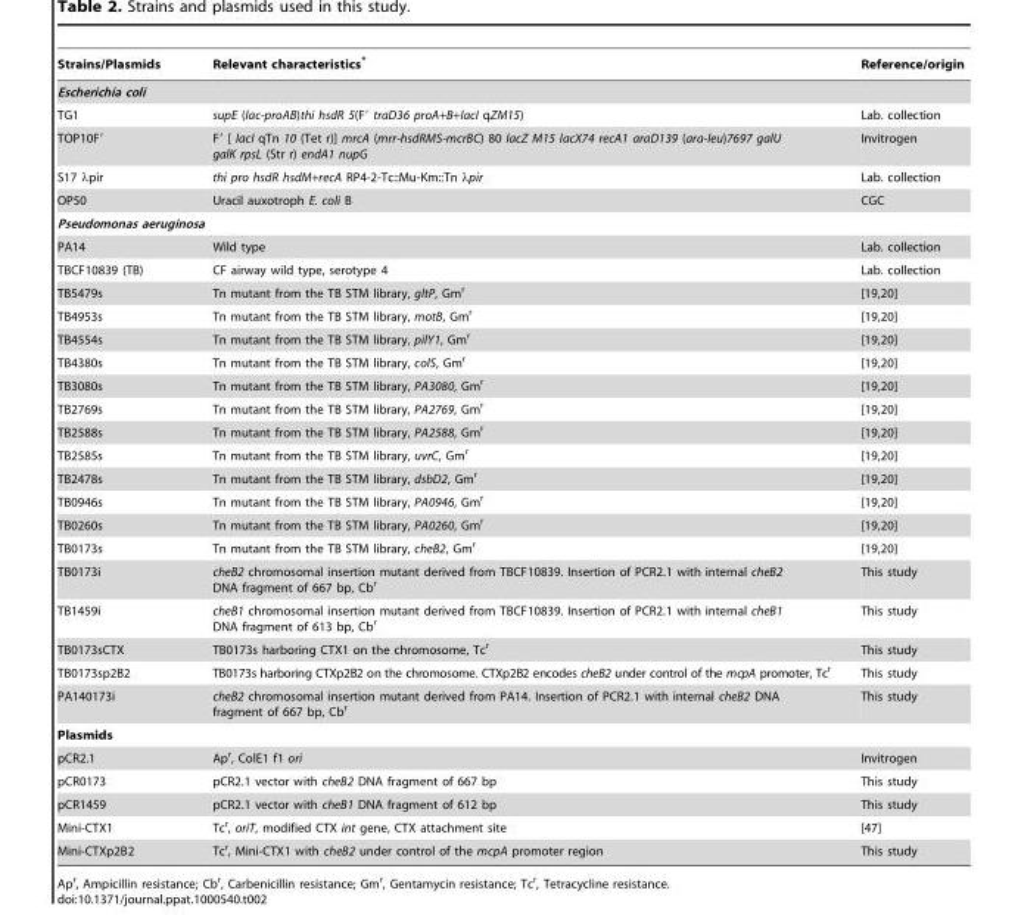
<table><thead><tr><td>Strains/Plasmids</td><td>Relevant characteristics*</td><td>Reference/origin</td></tr></thead><tbody><tr><td colspan="3">Escherichia coli</td></tr><tr><td>TG1</td><td>supE (lac-proAB)thi hsdR 5(F′ traD36 proA+B+lacI qZM15)</td><td>Lab. collection</td></tr><tr><td>TOP10F′</td><td>F′ [ lacI qTn 10 (Tet r)] mrcA (mrr-hsdRMS-mcrBC) 80 lacZ M15 lacX74 recA1 araD139 (ara-leu)7697 galU galK rpsL (Str r) endA1 nupG</td><td>Invitrogen</td></tr><tr><td>S17 λpir</td><td>thi pro hsdR hsdM+recA RP4-2-Tc::Mu-Km::Tn λpir</td><td>Lab. collection</td></tr><tr><td>OP50</td><td>Uracil auxotroph E. coli B</td><td>CGC</td></tr><tr><td colspan="3">Pseudomonas aeruginosa</td></tr><tr><td>PA14</td><td>Wild type</td><td>Lab. collection</td></tr><tr><td>TBCF10839 (TB)</td><td>CF airway wild type, serotype 4</td><td>Lab. collection</td></tr><tr><td>TB5479s</td><td>Tn mutant from the TB STM library, gltP, Gm<sup>r</sup></td><td>[19,20]</td></tr><tr><td>TB4953s</td><td>Tn mutant from the TB STM library, motB, Gm<sup>r</sup></td><td>[19,20]</td></tr><tr><td>TB4554s</td><td>Tn mutant from the TB STM library, pilY1, Gm<sup>r</sup></td><td>[19,20]</td></tr><tr><td>TB4380s</td><td>Tn mutant from the TB STM library, colS, Gm<sup>r</sup></td><td>[19,20]</td></tr><tr><td>TB3080s</td><td>Tn mutant from the TB STM library, PA3080, Gm<sup>r</sup></td><td>[19,20]</td></tr><tr><td>TB2769s</td><td>Tn mutant from the TB STM library, PA2769, Gm<sup>r</sup></td><td>[19,20]</td></tr><tr><td>TB2588s</td><td>Tn mutant from the TB STM library, PA2588, Gm<sup>r</sup></td><td>[19,20]</td></tr><tr><td>TB2585s</td><td>Tn mutant from the TB STM library, uvrC, Gm<sup>r</sup></td><td>[19,20]</td></tr><tr><td>TB2478s</td><td>Tn mutant from the TB STM library, dsbD2, Gm<sup>r</sup></td><td>[19,20]</td></tr><tr><td>TB0946s</td><td>Tn mutant from the TB STM library, PA0946, Gm<sup>r</sup></td><td>[19,20]</td></tr><tr><td>TB0260s</td><td>Tn mutant from the TB STM library, PA0260, Gm<sup>r</sup></td><td>[19,20]</td></tr><tr><td>TB0173s</td><td>Tn mutant from the TB STM library, cheB2, Gm<sup>r</sup></td><td>[19,20]</td></tr><tr><td>TB0173i</td><td>cheB2 chromosomal insertion mutant derived from TBCF10839. Insertion of PCR2.1 with internal cheB2 DNA fragment of 667 bp, Cb<sup>r</sup></td><td>This study</td></tr><tr><td>TB1459i</td><td>cheB1 chromosomal insertion mutant derived from TBCF10839. Insertion of PCR2.1 with internal cheB1 DNA fragment of 613 bp, Cb<sup>r</sup></td><td>This study</td></tr><tr><td>TB0173sCTX</td><td>TB0173s harboring CTX1 on the chromosome, Tc<sup>r</sup></td><td>This study</td></tr><tr><td>TB0173sp2B2</td><td>TB0173s harboring CTXp2B2 on the chromosome. CTXp2B2 encodes cheB2 under control of the mcpA promoter, Tc<sup>r</sup></td><td>This study</td></tr><tr><td>PA140173i</td><td>cheB2 chromosomal insertion mutant derived from PA14. Insertion of PCR2.1 with internal cheB2 DNA fragment of 667 bp, Cb<sup>r</sup></td><td>This study</td></tr><tr><td colspan="3">Plasmids</td></tr><tr><td>pCR2.1</td><td>Ap<sup>r</sup>, ColE1 f1 ori</td><td>Invitrogen</td></tr><tr><td>pCR0173</td><td>pCR2.1 vector with cheB2 DNA fragment of 667 bp</td><td>This study</td></tr><tr><td>pCR1459</td><td>pCR2.1 vector with cheB1 DNA fragment of 612 bp</td><td>This study</td></tr><tr><td>Mini-CTX1</td><td>Tc<sup>r</sup>, oriT, modified CTX int gene, CTX attachment site</td><td>[47]</td></tr><tr><td>Mini-CTXp2B2</td><td>Tc<sup>r</sup>, Mini-CTX1 with cheB2 under control of the mcpA promoter region</td><td>This study</td></tr></tbody></table>